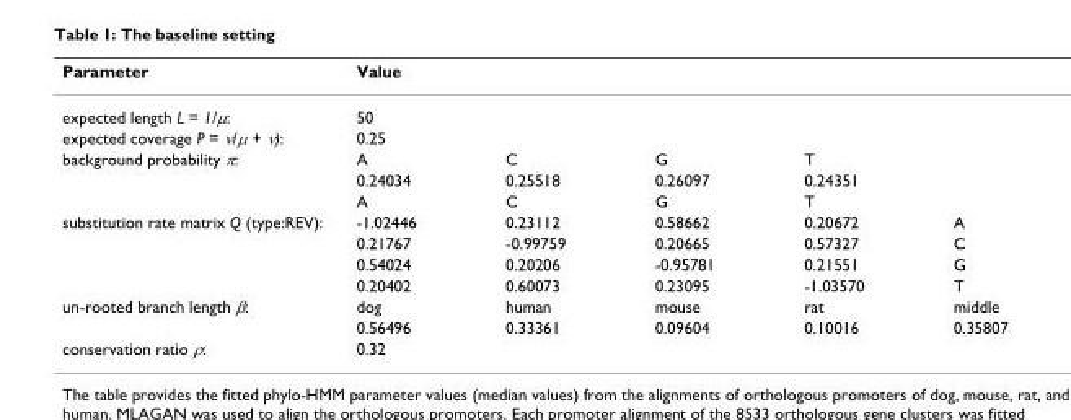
<table><thead><tr><td>Parameter</td><td>Value</td><td></td><td></td><td></td><td></td></tr></thead><tbody><tr><td>expected length L = 1/µ:</td><td>50</td><td></td><td></td><td></td><td></td></tr><tr><td>expected coverage P = ν/µ + ν):</td><td>0.25</td><td></td><td></td><td></td><td></td></tr><tr><td rowspan="3">background probability π:</td><td>A</td><td>C</td><td>G</td><td>T</td><td></td></tr><tr><td>0.24034</td><td>0.25518</td><td>0.26097</td><td>0.24351</td><td></td></tr><tr><td>A</td><td>C</td><td>G</td><td>T</td><td></td></tr><tr><td rowspan="4">substitution rate matrix Q (type:REV):</td><td>-1.02446</td><td>0.23112</td><td>0.58662</td><td>0.20672</td><td>A</td></tr><tr><td>0.21767</td><td>-0.99759</td><td>0.20665</td><td>0.57327</td><td>C</td></tr><tr><td>0.54024</td><td>0.20206</td><td>-0.95781</td><td>0.21551</td><td>G</td></tr><tr><td>0.20402</td><td>0.60073</td><td>0.23095</td><td>-1.03570</td><td>T</td></tr><tr><td rowspan="2">un-rooted branch length β:</td><td>dog</td><td>human</td><td>mouse</td><td>rat</td><td>middle</td></tr><tr><td>0.56496</td><td>0.33361</td><td>0.09604</td><td>0.10016</td><td>0.35807</td></tr><tr><td>conservation ratio ρ:</td><td>0.32</td><td></td><td></td><td></td><td></td></tr></tbody></table>